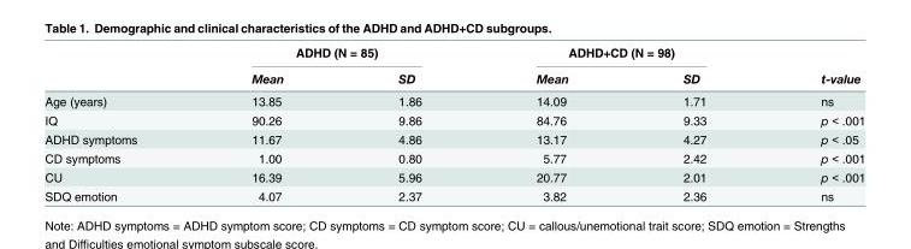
<table><thead><tr><td rowspan="2"></td><td colspan="2">ADHD (N = 85)</td><td colspan="2">ADHD+CD (N = 98)</td><td rowspan="2">t-value</td></tr><tr><td>Mean</td><td>SD</td><td>Mean</td><td>SD</td></tr></thead><tbody><tr><td>Age (years)</td><td>13.85</td><td>1.86</td><td>14.09</td><td>1.71</td><td>ns</td></tr><tr><td>IQ</td><td>90.26</td><td>9.86</td><td>84.76</td><td>9.33</td><td>p &lt; .001</td></tr><tr><td>ADHD symptoms</td><td>11.67</td><td>4.86</td><td>13.17</td><td>4.27</td><td>p &lt; .05</td></tr><tr><td>CD symptoms</td><td>1.00</td><td>0.80</td><td>5.77</td><td>2.42</td><td>p &lt; .001</td></tr><tr><td>CU</td><td>16.39</td><td>5.96</td><td>20.77</td><td>2.01</td><td>p &lt; .001</td></tr><tr><td>SDQ emotion</td><td>4.07</td><td>2.37</td><td>3.82</td><td>2.36</td><td>ns</td></tr></tbody></table>